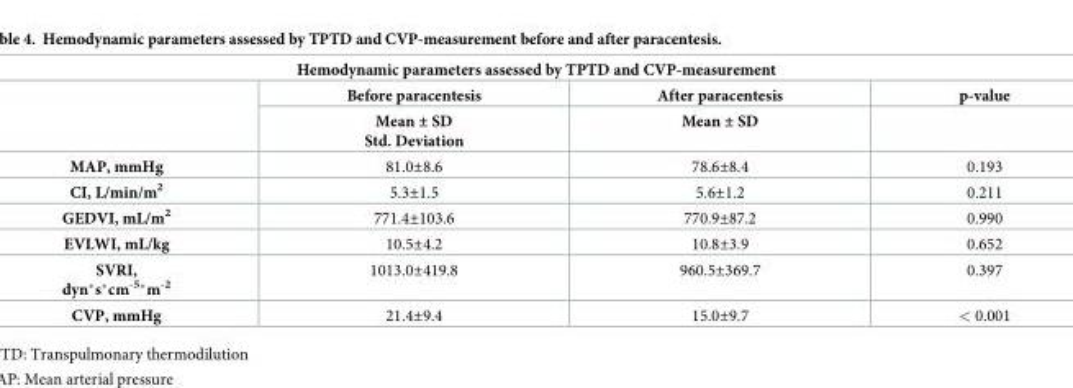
<table><thead><tr><td colspan="4">Hemodynamic parameters assessed by TPTD and CVP-measurement</td></tr><tr><td rowspan="2"></td><td rowspan="2">Before paracentesis Mean ± SD Std. Deviation</td><td rowspan="2">After paracentesis Mean ± SD</td><td rowspan="2">p-value</td></tr><tr></tr></thead><tbody><tr><td>MAP, mmHg</td><td>81.0±8.6</td><td>78.6±8.4</td><td>0.193</td></tr><tr><td>CI, L/min/m<sup>2</sup></td><td>5.3±1.5</td><td>5.6±1.2</td><td>0.211</td></tr><tr><td>GEDVI, mL/m<sup>2</sup></td><td>771.4±103.6</td><td>770.9±87.2</td><td>0.990</td></tr><tr><td>EVLWI, mL/kg</td><td>10.5±4.2</td><td>10.8±3.9</td><td>0.652</td></tr><tr><td>SVRI, dyn*s*cm<sup>-5</sup>*m<sup>-2</sup></td><td>1013.0±419.8</td><td>960.5±369.7</td><td>0.397</td></tr><tr><td>CVP, mmHg</td><td>21.4±9.4</td><td>15.0±9.7</td><td>&lt; 0.001</td></tr></tbody></table>